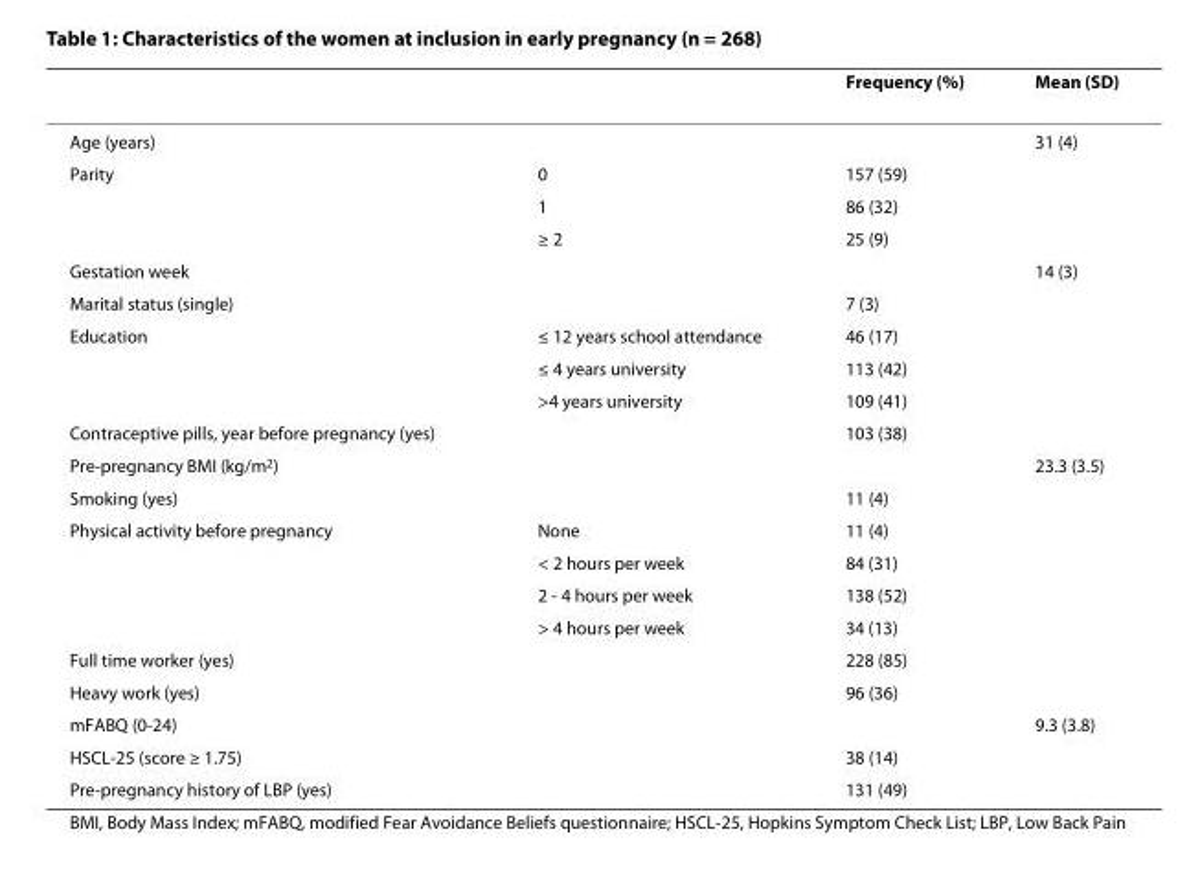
<table><thead><tr><td></td><td></td><td>Frequency (%)</td><td>Mean (SD)</td></tr></thead><tbody><tr><td>Age (years)</td><td></td><td></td><td>31 (4)</td></tr><tr><td rowspan="3">Parity</td><td>0</td><td>157 (59)</td><td></td></tr><tr><td>1</td><td>86 (32)</td><td></td></tr><tr><td>≥ 2</td><td>25 (9)</td><td></td></tr><tr><td>Gestation week</td><td></td><td></td><td>14 (3)</td></tr><tr><td>Marital status (single)</td><td></td><td>7 (3)</td><td></td></tr><tr><td rowspan="3">Education</td><td>≤ 12 years school attendance</td><td>46 (17)</td><td></td></tr><tr><td>≤ 4 years university</td><td>113 (42)</td><td></td></tr><tr><td>&gt;4 years university</td><td>109 (41)</td><td></td></tr><tr><td>Contraceptive pills, year before pregnancy (yes)</td><td></td><td>103 (38)</td><td></td></tr><tr><td>Pre-pregnancy BMI (kg/m<sup>2</sup>)</td><td></td><td></td><td>23.3 (3.5)</td></tr><tr><td>Smoking (yes)</td><td></td><td>11 (4)</td><td></td></tr><tr><td rowspan="4">Physical activity before pregnancy</td><td>None</td><td>11 (4)</td><td></td></tr><tr><td>&lt; 2 hours per week</td><td>84 (31)</td><td></td></tr><tr><td>2 - 4 hours per week</td><td>138 (52)</td><td></td></tr><tr><td>&gt; 4 hours per week</td><td>34 (13)</td><td></td></tr><tr><td>Full time worker (yes)</td><td></td><td>228 (85)</td><td></td></tr><tr><td>Heavy work (yes)</td><td></td><td>96 (36)</td><td></td></tr><tr><td>mFABQ (0-24)</td><td></td><td></td><td>9.3 (3.8)</td></tr><tr><td>HSCL-25 (score ≥ 1.75)</td><td></td><td>38 (14)</td><td></td></tr><tr><td>Pre-pregnancy history of LBP (yes)</td><td></td><td>131 (49)</td><td></td></tr></tbody></table>